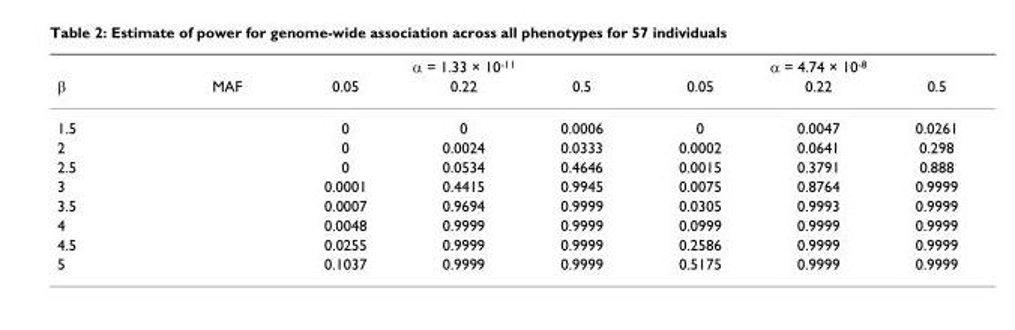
<table><thead><tr><td rowspan="2">β</td><td rowspan="2">MAF</td><td colspan="3">α = 1.33 × 10<sup>-11</sup></td><td colspan="3">α = 4.74 × 10<sup>-8</sup></td></tr><tr><td>0.05</td><td>0.22</td><td>0.5</td><td>0.05</td><td>0.22</td><td>0.5</td></tr></thead><tbody><tr><td>1.5</td><td></td><td>0</td><td>0</td><td>0.0006</td><td>0</td><td>0.0047</td><td>0.0261</td></tr><tr><td>2</td><td></td><td>0</td><td>0.0024</td><td>0.0333</td><td>0.0002</td><td>0.0641</td><td>0.298</td></tr><tr><td>2.5</td><td></td><td>0</td><td>0.0534</td><td>0.4646</td><td>0.0015</td><td>0.3791</td><td>0.888</td></tr><tr><td>3</td><td></td><td>0.0001</td><td>0.4415</td><td>0.9945</td><td>0.0075</td><td>0.8764</td><td>0.9999</td></tr><tr><td>3.5</td><td></td><td>0.0007</td><td>0.9694</td><td>0.9999</td><td>0.0305</td><td>0.9993</td><td>0.9999</td></tr><tr><td>4</td><td></td><td>0.0048</td><td>0.9999</td><td>0.9999</td><td>0.0999</td><td>0.9999</td><td>0.9999</td></tr><tr><td>4.5</td><td></td><td>0.0255</td><td>0.9999</td><td>0.9999</td><td>0.2586</td><td>0.9999</td><td>0.9999</td></tr><tr><td>5</td><td></td><td>0.1037</td><td>0.9999</td><td>0.9999</td><td>0.5175</td><td>0.9999</td><td>0.9999</td></tr></tbody></table>